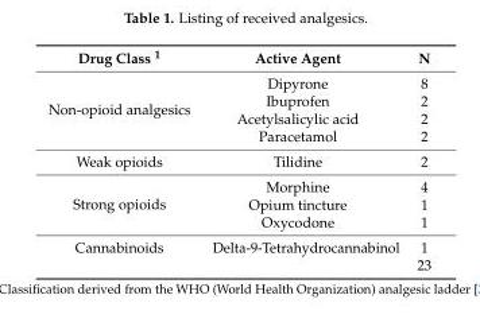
<table><thead><tr><td>Drug Class <sup>1</sup></td><td>Active Agent</td><td>N</td></tr></thead><tbody><tr><td rowspan="4">Non-opioid analgesics</td><td>Dipyrone</td><td>8</td></tr><tr><td>Ibuprofen</td><td>2</td></tr><tr><td>Acetylsalicylic acid</td><td>2</td></tr><tr><td>Paracetamol</td><td>2</td></tr><tr><td>Weak opioids</td><td>Tilidine</td><td>2</td></tr><tr><td rowspan="3">Strong opioids</td><td>Morphine</td><td>4</td></tr><tr><td>Opium tincture</td><td>1</td></tr><tr><td>Oxycodone</td><td>1</td></tr><tr><td rowspan="2">Cannabinoids</td><td>Delta-9-Tetrahydrocannabinol</td><td>1</td></tr><tr><td></td><td>23</td></tr></tbody></table>